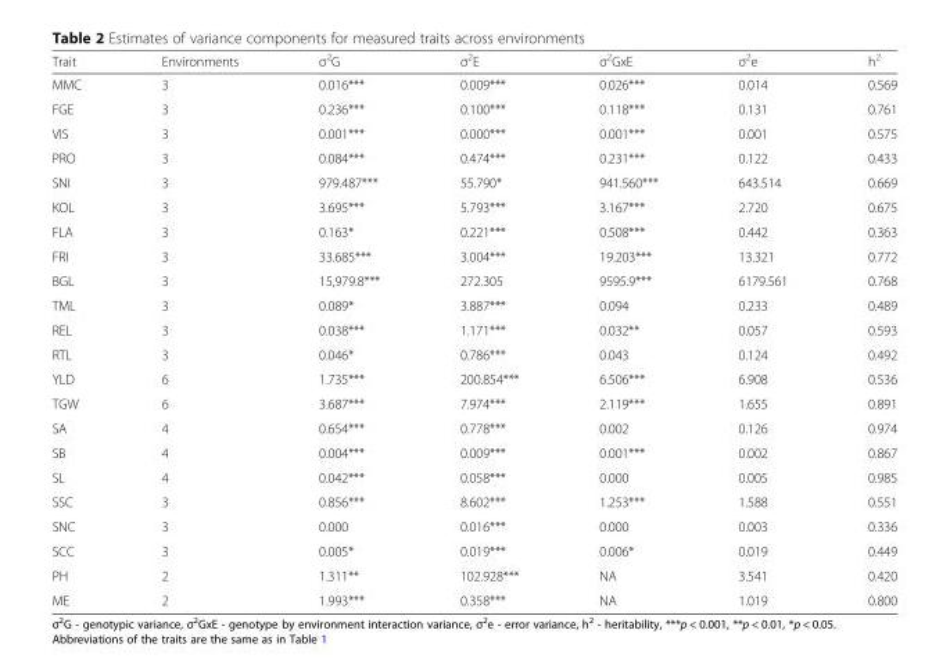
<table><thead><tr><td>Trait</td><td>Environments</td><td>σ<sup>2</sup>G</td><td>σ<sup>2</sup>E</td><td>σ<sup>2</sup>GxE</td><td>σ<sup>2</sup>e</td><td>h<sup>2</sup></td></tr></thead><tbody><tr><td>MMC</td><td>3</td><td>0.016***</td><td>0.009***</td><td>0.026***</td><td>0.014</td><td>0.569</td></tr><tr><td>FGE</td><td>3</td><td>0.236***</td><td>0.100***</td><td>0.118***</td><td>0.131</td><td>0.761</td></tr><tr><td>VIS</td><td>3</td><td>0.001***</td><td>0.000***</td><td>0.001***</td><td>0.001</td><td>0.575</td></tr><tr><td>PRO</td><td>3</td><td>0.084***</td><td>0.474***</td><td>0.231***</td><td>0.122</td><td>0.433</td></tr><tr><td>SNI</td><td>3</td><td>979.487***</td><td>55.790*</td><td>941.560***</td><td>643.514</td><td>0.669</td></tr><tr><td>KOL</td><td>3</td><td>3.695***</td><td>5.793***</td><td>3.167***</td><td>2.720</td><td>0.675</td></tr><tr><td>FLA</td><td>3</td><td>0.163*</td><td>0.221***</td><td>0.508***</td><td>0.442</td><td>0.363</td></tr><tr><td>FRI</td><td>3</td><td>33.685***</td><td>3.004***</td><td>19.203***</td><td>13.321</td><td>0.772</td></tr><tr><td>BGL</td><td>3</td><td>15,979.8***</td><td>272.305</td><td>9595.9***</td><td>6179.561</td><td>0.768</td></tr><tr><td>TML</td><td>3</td><td>0.089*</td><td>3.887***</td><td>0.094</td><td>0.233</td><td>0.489</td></tr><tr><td>REL</td><td>3</td><td>0.038***</td><td>1.171***</td><td>0.032**</td><td>0.057</td><td>0.593</td></tr><tr><td>RTL</td><td>3</td><td>0.046*</td><td>0.786***</td><td>0.043</td><td>0.124</td><td>0.492</td></tr><tr><td>YLD</td><td>6</td><td>1.735***</td><td>200.854***</td><td>6.506***</td><td>6.908</td><td>0.536</td></tr><tr><td>TGW</td><td>6</td><td>3.687***</td><td>7.974***</td><td>2.119***</td><td>1.655</td><td>0.891</td></tr><tr><td>SA</td><td>4</td><td>0.654***</td><td>0.778***</td><td>0.002</td><td>0.126</td><td>0.974</td></tr><tr><td>SB</td><td>4</td><td>0.004***</td><td>0.009***</td><td>0.001***</td><td>0.002</td><td>0.867</td></tr><tr><td>SL</td><td>4</td><td>0.042***</td><td>0.058***</td><td>0.000</td><td>0.005</td><td>0.985</td></tr><tr><td>SSC</td><td>3</td><td>0.856***</td><td>8.602***</td><td>1.253***</td><td>1.588</td><td>0.551</td></tr><tr><td>SNC</td><td>3</td><td>0.000</td><td>0.016***</td><td>0.000</td><td>0.003</td><td>0.336</td></tr><tr><td>SCC</td><td>3</td><td>0.005*</td><td>0.019***</td><td>0.006*</td><td>0.019</td><td>0.449</td></tr><tr><td>PH</td><td>2</td><td>1.311**</td><td>102.928***</td><td>NA</td><td>3.541</td><td>0.420</td></tr><tr><td>ME</td><td>2</td><td>1.993***</td><td>0.358***</td><td>NA</td><td>1.019</td><td>0.800</td></tr></tbody></table>